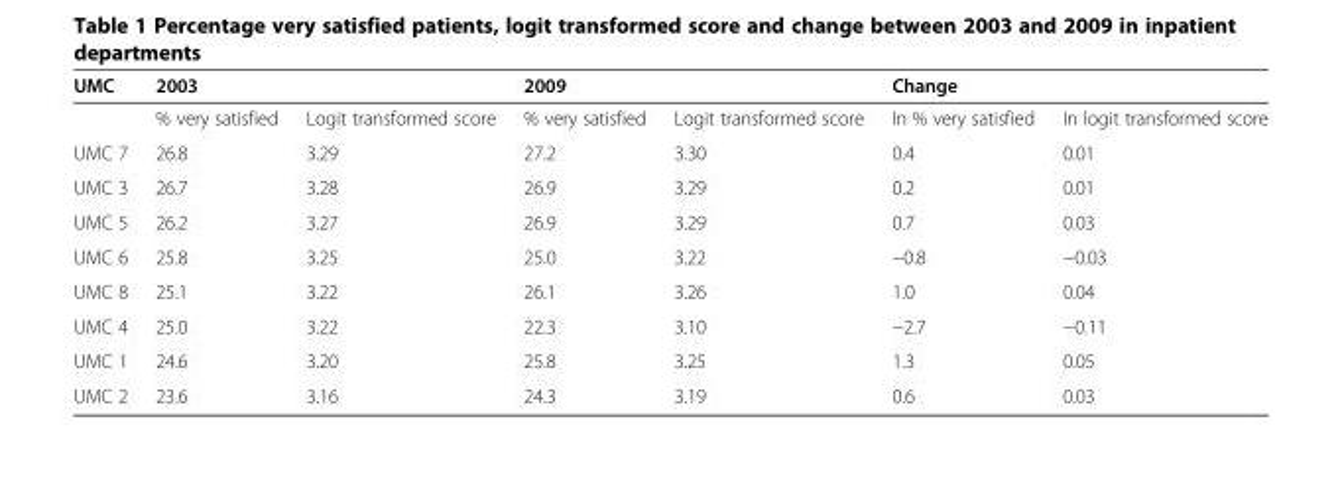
<table><thead><tr><td rowspan="2">UMC</td><td colspan="2">2003</td><td colspan="2">2009</td><td colspan="2">Change</td></tr><tr><td>% very satisfied</td><td>Logit transformed score</td><td>% very satisfied</td><td>Logit transformed score</td><td>In % very satisfied</td><td>In logit transformed score</td></tr></thead><tbody><tr><td>UMC 7</td><td>26.8</td><td>3.29</td><td>27.2</td><td>3.30</td><td>0.4</td><td>0.01</td></tr><tr><td>UMC 3</td><td>26.7</td><td>3.28</td><td>26.9</td><td>3.29</td><td>0.2</td><td>0.01</td></tr><tr><td>UMC 5</td><td>26.2</td><td>3.27</td><td>26.9</td><td>3.29</td><td>0.7</td><td>0.03</td></tr><tr><td>UMC 6</td><td>25.8</td><td>3.25</td><td>25.0</td><td>3.22</td><td>−0.8</td><td>−0.03</td></tr><tr><td>UMC 8</td><td>25.1</td><td>3.22</td><td>26.1</td><td>3.26</td><td>1.0</td><td>0.04</td></tr><tr><td>UMC 4</td><td>25.0</td><td>3.22</td><td>22.3</td><td>3.10</td><td>−2.7</td><td>−0.11</td></tr><tr><td>UMC 1</td><td>24.6</td><td>3.20</td><td>25.8</td><td>3.25</td><td>1.3</td><td>0.05</td></tr><tr><td>UMC 2</td><td>23.6</td><td>3.16</td><td>24.3</td><td>3.19</td><td>0.6</td><td>0.03</td></tr></tbody></table>